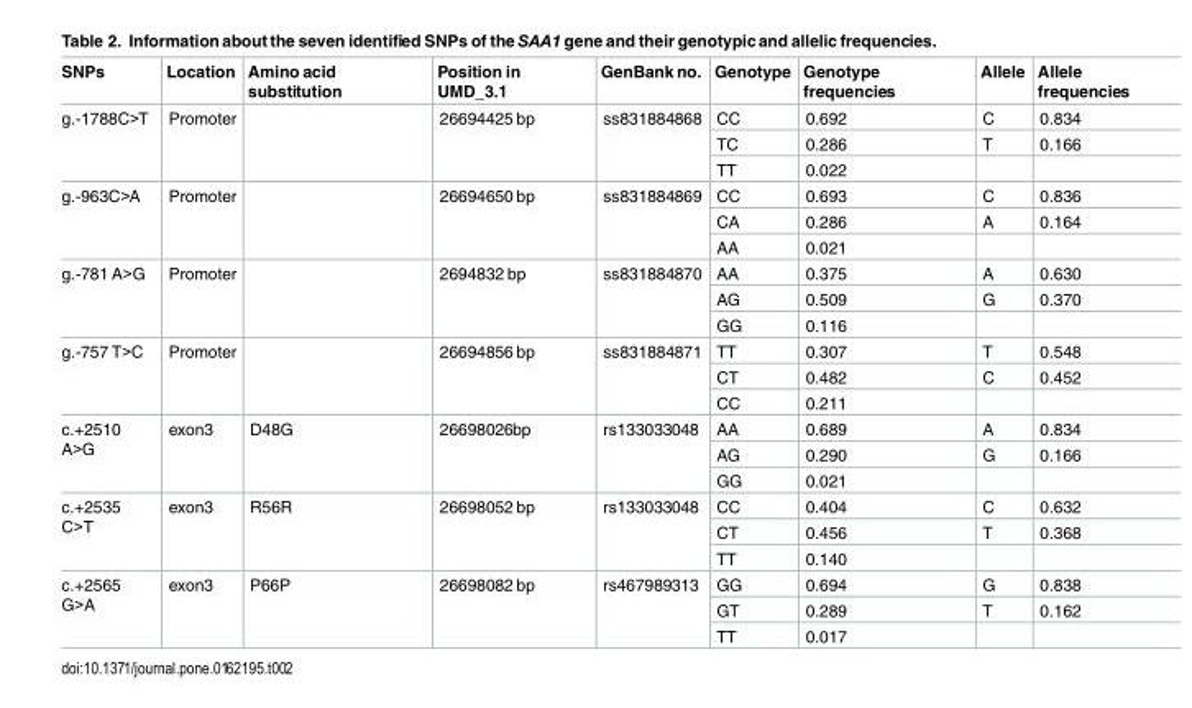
<table><thead><tr><td>SNPs</td><td>Location</td><td>Amino acid substitution</td><td>Position in UMD_3.1</td><td>GenBank no.</td><td>Genotype</td><td>Genotype frequencies</td><td>Allele</td><td>Allele frequencies</td></tr></thead><tbody><tr><td rowspan="3">g.-1788C&gt;T</td><td rowspan="3">Promoter</td><td rowspan="3"></td><td rowspan="3">26694425 bp</td><td rowspan="3">ss831884868</td><td>CC</td><td>0.692</td><td>C</td><td>0.834</td></tr><tr><td>TC</td><td>0.286</td><td>T</td><td>0.166</td></tr><tr><td>TT</td><td>0.022</td><td></td><td></td></tr><tr><td rowspan="3">g.-963C&gt;A</td><td rowspan="3">Promoter</td><td rowspan="3"></td><td rowspan="3">26694650 bp</td><td rowspan="3">ss831884869</td><td>CC</td><td>0.693</td><td>C</td><td>0.836</td></tr><tr><td>CA</td><td>0.286</td><td>A</td><td>0.164</td></tr><tr><td>AA</td><td>0.021</td><td></td><td></td></tr><tr><td rowspan="3">g.-781 A&gt;G</td><td rowspan="3">Promoter</td><td rowspan="3"></td><td rowspan="3">2694832 bp</td><td rowspan="3">ss831884870</td><td>AA</td><td>0.375</td><td>A</td><td>0.630</td></tr><tr><td>AG</td><td>0.509</td><td>G</td><td>0.370</td></tr><tr><td>GG</td><td>0.116</td><td></td><td></td></tr><tr><td rowspan="3">g.-757 T&gt;C</td><td rowspan="3">Promoter</td><td rowspan="3"></td><td rowspan="3">26694856 bp</td><td rowspan="3">ss831884871</td><td>TT</td><td>0.307</td><td>T</td><td>0.548</td></tr><tr><td>CT</td><td>0.482</td><td>C</td><td>0.452</td></tr><tr><td>CC</td><td>0.211</td><td></td><td></td></tr><tr><td rowspan="3">c.+2510 A&gt;G</td><td rowspan="3">exon3</td><td rowspan="3">D48G</td><td rowspan="3">26698026bp</td><td rowspan="3">rs133033048</td><td>AA</td><td>0.689</td><td>A</td><td>0.834</td></tr><tr><td>AG</td><td>0.290</td><td>G</td><td>0.166</td></tr><tr><td>GG</td><td>0.021</td><td></td><td></td></tr><tr><td rowspan="3">c.+2535 C&gt;T</td><td rowspan="3">exon3</td><td rowspan="3">R56R</td><td rowspan="3">26698052 bp</td><td rowspan="3">rs133033048</td><td>CC</td><td>0.404</td><td>C</td><td>0.632</td></tr><tr><td>CT</td><td>0.456</td><td>T</td><td>0.368</td></tr><tr><td>TT</td><td>0.140</td><td></td><td></td></tr><tr><td rowspan="3">c.+2565 G&gt;A</td><td rowspan="3">exon3</td><td rowspan="3">P66P</td><td rowspan="3">26698082 bp</td><td rowspan="3">rs467989313</td><td>GG</td><td>0.694</td><td>G</td><td>0.838</td></tr><tr><td>GT</td><td>0.289</td><td>T</td><td>0.162</td></tr><tr><td>TT</td><td>0.017</td><td></td><td></td></tr></tbody></table>